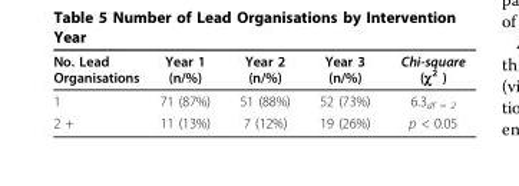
<table><thead><tr><td>No. Lead Organisations</td><td>Year 1 (n/%)</td><td>Year 2 (n/%)</td><td>Year 3 (n/%)</td><td>Chi-square (χ<sup>2</sup> )</td></tr></thead><tbody><tr><td>1</td><td>71 (87%)</td><td>51 (88%)</td><td>52 (73%)</td><td>6.3<sub>df = 2</sub></td></tr><tr><td>2 +</td><td>11 (13%)</td><td>7 (12%)</td><td>19 (26%)</td><td>p &lt; 0.05</td></tr></tbody></table>